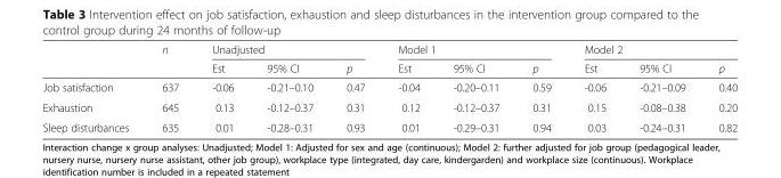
<table><thead><tr><td rowspan="2"></td><td rowspan="2">n</td><td colspan="3">Unadjusted</td><td colspan="3">Model 1</td><td colspan="3">Model 2</td></tr><tr><td>Est</td><td>95% CI</td><td>p</td><td>Est</td><td>95% CI</td><td>p</td><td>Est</td><td>95% CI</td><td>p</td></tr></thead><tbody><tr><td>Job satisfaction</td><td>637</td><td>-0.06</td><td>-0.21–0.10</td><td>0.47</td><td>-0.04</td><td>-0.20–0.11</td><td>0.59</td><td>-0.06</td><td>-0.21–0.09</td><td>0.40</td></tr><tr><td>Exhaustion</td><td>645</td><td>0.13</td><td>-0.12–0.37</td><td>0.31</td><td>0.12</td><td>-0.12–0.37</td><td>0.31</td><td>0.15</td><td>-0.08–0.38</td><td>0.20</td></tr><tr><td>Sleep disturbances</td><td>635</td><td>0.01</td><td>-0.28–0.31</td><td>0.93</td><td>0.01</td><td>-0.29–0.31</td><td>0.94</td><td>0.03</td><td>-0.24–0.31</td><td>0.82</td></tr></tbody></table>